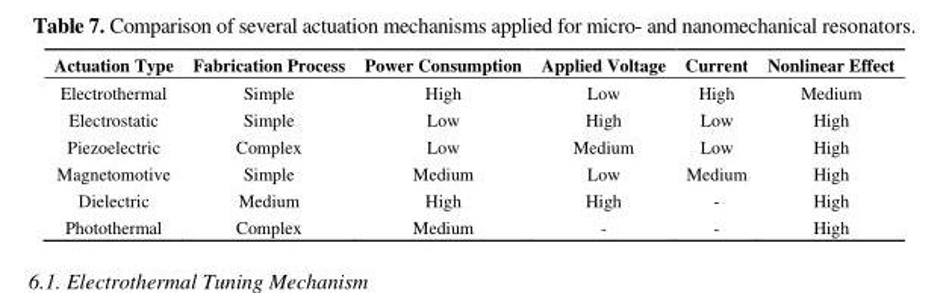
<table><thead><tr><td>Actuation Type</td><td>Fabrication Process</td><td>Power Consumption</td><td>Applied Voltage</td><td>Current</td><td>Nonlinear Effect</td></tr></thead><tbody><tr><td>Electrothermal</td><td>Simple</td><td>High</td><td>Low</td><td>High</td><td>Medium</td></tr><tr><td>Electrostatic</td><td>Simple</td><td>Low</td><td>High</td><td>Low</td><td>High</td></tr><tr><td>Piezoelectric</td><td>Complex</td><td>Low</td><td>Medium</td><td>Low</td><td>High</td></tr><tr><td>Magnetomotive</td><td>Simple</td><td>Medium</td><td>Low</td><td>Medium</td><td>High</td></tr><tr><td>Dielectric</td><td>Medium</td><td>High</td><td>High</td><td>-</td><td>High</td></tr><tr><td>Photothermal</td><td>Complex</td><td>Medium</td><td>-</td><td>-</td><td>High</td></tr></tbody></table>